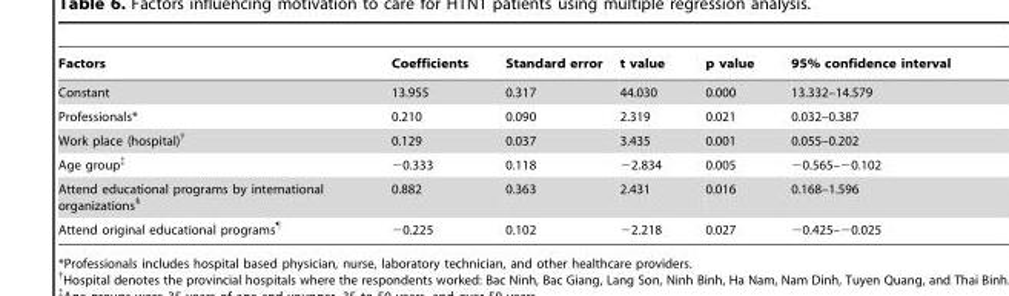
<table><thead><tr><td>Factors</td><td>Coefficients</td><td>Standard error</td><td>t value</td><td>p value</td><td>95% confidence interval</td></tr></thead><tbody><tr><td>Constant</td><td>13.955</td><td>0.317</td><td>44.030</td><td>0.000</td><td>13.332–14.579</td></tr><tr><td>Professionals*</td><td>0.210</td><td>0.090</td><td>2.319</td><td>0.021</td><td>0.032–0.387</td></tr><tr><td>Work place (hospital)†</td><td>0.129</td><td>0.037</td><td>3.435</td><td>0.001</td><td>0.055–0.202</td></tr><tr><td>Age group‡</td><td>−0.333</td><td>0.118</td><td>−2.834</td><td>0.005</td><td>−0.565–−0.102</td></tr><tr><td>Attend educational programs by international organizations§</td><td>0.882</td><td>0.363</td><td>2.431</td><td>0.016</td><td>0.168–1.596</td></tr><tr><td>Attend original educational programs¶</td><td>−0.225</td><td>0.102</td><td>−2.218</td><td>0.027</td><td>−0.425–−0.025</td></tr></tbody></table>